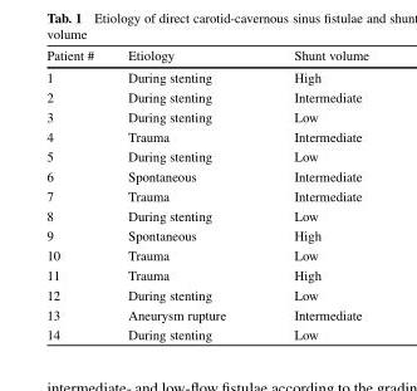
<table><thead><tr><td>Patient #</td><td>Etiology</td><td>Shunt volume</td></tr></thead><tbody><tr><td>1</td><td>During stenting</td><td>High</td></tr><tr><td>2</td><td>During stenting</td><td>Intermediate</td></tr><tr><td>3</td><td>During stenting</td><td>Low</td></tr><tr><td>4</td><td>Trauma</td><td>Intermediate</td></tr><tr><td>5</td><td>During stenting</td><td>Low</td></tr><tr><td>6</td><td>Spontaneous</td><td>Intermediate</td></tr><tr><td>7</td><td>Trauma</td><td>Intermediate</td></tr><tr><td>8</td><td>During stenting</td><td>Low</td></tr><tr><td>9</td><td>Spontaneous</td><td>High</td></tr><tr><td>10</td><td>Trauma</td><td>Low</td></tr><tr><td>11</td><td>Trauma</td><td>High</td></tr><tr><td>12</td><td>During stenting</td><td>Low</td></tr><tr><td>13</td><td>Aneurysm rupture</td><td>Intermediate</td></tr><tr><td>14</td><td>During stenting</td><td>Low</td></tr></tbody></table>